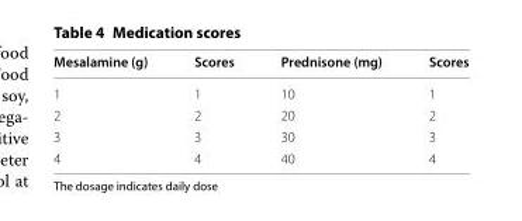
<table><thead><tr><td>Mesalamine (g)</td><td>Scores</td><td>Prednisone (mg)</td><td>Scores</td></tr></thead><tbody><tr><td>1</td><td>1</td><td>10</td><td>1</td></tr><tr><td>2</td><td>2</td><td>20</td><td>2</td></tr><tr><td>3</td><td>3</td><td>30</td><td>3</td></tr><tr><td>4</td><td>4</td><td>40</td><td>4</td></tr></tbody></table>